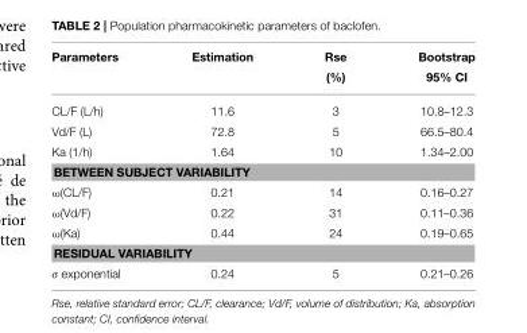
<table><thead><tr><td rowspan="2">Parameters</td><td rowspan="2">Estimation</td><td rowspan="2">Rse (%)</td><td rowspan="2">Bootstrap 95% CI</td></tr><tr></tr></thead><tbody><tr><td>CL/F (L/h)</td><td>11.6</td><td>3</td><td>10.8–12.3</td></tr><tr><td>Vd/F (L)</td><td>72.8</td><td>5</td><td>66.5–80.4</td></tr><tr><td>Ka (1/h)</td><td>1.64</td><td>10</td><td>1.34–2.00</td></tr><tr><td colspan="4">BETWEEN SUBJECT VARIABILITY</td></tr><tr><td>ω(CL/F)</td><td>0.21</td><td>14</td><td>0.16–0.27</td></tr><tr><td>ω(Vd/F)</td><td>0.22</td><td>31</td><td>0.11–0.36</td></tr><tr><td>ω(Ka)</td><td>0.44</td><td>24</td><td>0.19–0.65</td></tr><tr><td colspan="4">RESIDUAL VARIABILITY</td></tr><tr><td>σ exponential</td><td>0.24</td><td>5</td><td>0.21–0.26</td></tr></tbody></table>